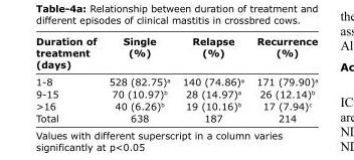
<table><thead><tr><td>Duration of treatment (days)</td><td>Single (%)</td><td>Relapse (%)</td><td>Recurrence (%)</td></tr></thead><tbody><tr><td>1-8</td><td>528 (82.75)<sup>a</sup></td><td>140 (74.86)<sup>a</sup></td><td>171 (79.90)<sup>a</sup></td></tr><tr><td>9-15</td><td>70 (10.97)<sup>b</sup></td><td>28 (14.97)<sup>a</sup></td><td>26 (12.14)<sup>b</sup></td></tr><tr><td>&gt;16</td><td>40 (6.26)<sup>b</sup></td><td>19 (10.16)<sup>b</sup></td><td>17 (7.94)<sup>c</sup></td></tr><tr><td>Total</td><td>638</td><td>187</td><td>214</td></tr></tbody></table>